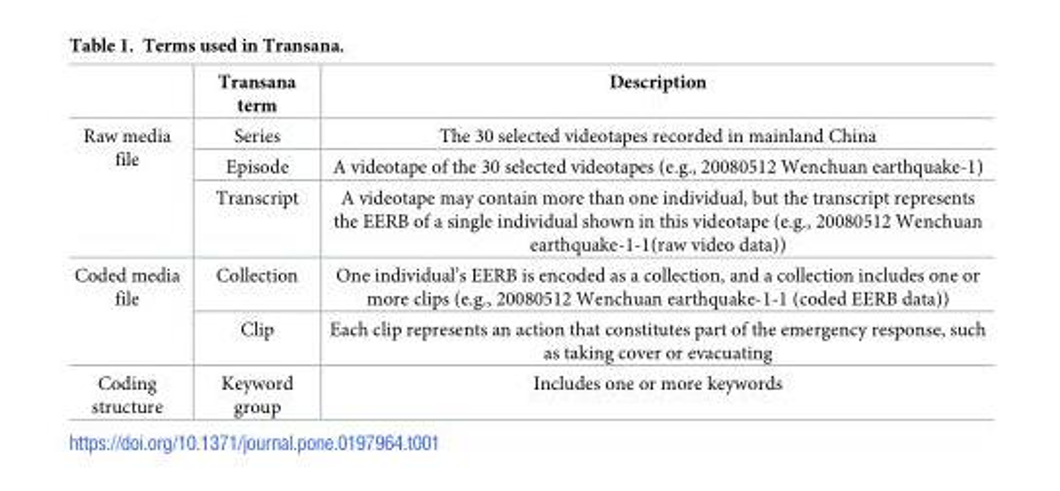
<table><thead><tr><td></td><td>Transana term</td><td>Description</td></tr></thead><tbody><tr><td rowspan="3">Raw media file</td><td>Series</td><td>The 30 selected videotapes recorded in mainland China</td></tr><tr><td>Episode</td><td>A videotape of the 30 selected videotapes (e.g., 20080512 Wenchuan earthquake-1)</td></tr><tr><td>Transcript</td><td>A videotape may contain more than one individual, but the transcript represents the EERB of a single individual shown in this videotape (e.g., 20080512 Wenchuan earthquake-1-1(raw video data))</td></tr><tr><td rowspan="2">Coded media file</td><td>Collection</td><td>One individual’s EERB is encoded as a collection, and a collection includes one or more clips (e.g., 20080512 Wenchuan earthquake-1-1 (coded EERB data))</td></tr><tr><td>Clip</td><td>Each clip represents an action that constitutes part of the emergency response, such as taking cover or evacuating</td></tr><tr><td>Coding structure</td><td>Keyword group</td><td>Includes one or more keywords</td></tr></tbody></table>